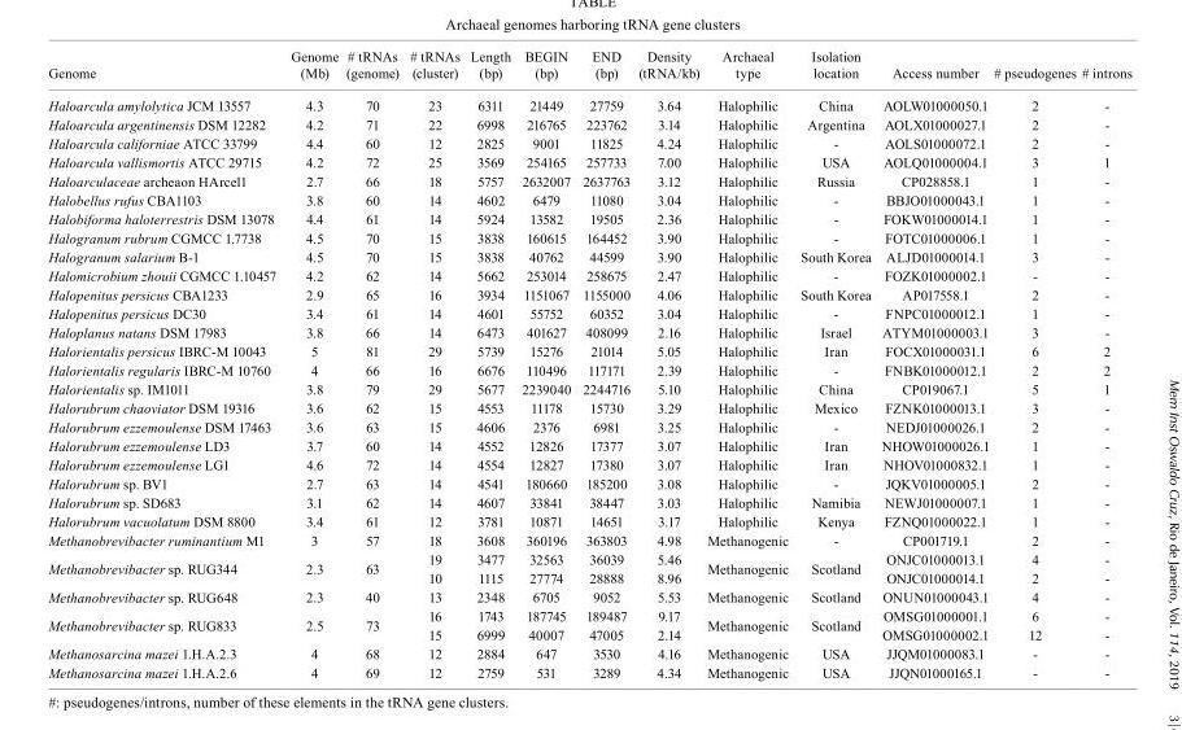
<table><tbody><tr><td>Genome</td><td>Genome (Mb)</td><td># tRNAs (genome)</td><td># tRNAs (cluster)</td><td>Length (bp)</td><td>BEGIN (bp)</td><td>END (bp)</td><td>Density (tRNA/kb)</td><td>Archaeal type</td><td>Isolation location</td><td>Access number</td><td># pseudogenes</td><td># introns</td></tr><tr><td>Haloarcula amylolytica JCM 13557</td><td>4.3</td><td>70</td><td>23</td><td>6311</td><td>21449</td><td>27759</td><td>3.64</td><td>Halophilic</td><td>China</td><td>AOLW01000050.1</td><td>2</td><td>-</td></tr><tr><td>Haloarcula argentinensis DSM 12282</td><td>4.2</td><td>71</td><td>22</td><td>6998</td><td>216765</td><td>223762</td><td>3.14</td><td>Halophilic</td><td>Argentina</td><td>AOLX01000027.1</td><td>2</td><td>-</td></tr><tr><td>Haloarcula californiae ATCC 33799</td><td>4.4</td><td>60</td><td>12</td><td>2825</td><td>9001</td><td>11825</td><td>4.24</td><td>Halophilic</td><td>-</td><td>AOLS01000072.1</td><td>2</td><td>-</td></tr><tr><td>Haloarcula vallismortis ATCC 29715</td><td>4.2</td><td>72</td><td>25</td><td>3569</td><td>254165</td><td>257733</td><td>7.00</td><td>Halophilic</td><td>USA</td><td>AOLQ01000004.1</td><td>3</td><td>1</td></tr><tr><td>Haloarculaceae archeaon HArcel1</td><td>2.7</td><td>66</td><td>18</td><td>5757</td><td>2632007</td><td>2637763</td><td>3.12</td><td>Halophilic</td><td>Russia</td><td>CP028858.1</td><td>1</td><td>-</td></tr><tr><td>Halobellus rufus CBA1103</td><td>3.8</td><td>60</td><td>14</td><td>4602</td><td>6479</td><td>11080</td><td>3.04</td><td>Halophilic</td><td>-</td><td>BBJO01000043.1</td><td>1</td><td>-</td></tr><tr><td>Halobiforma haloterrestris DSM 13078</td><td>4.4</td><td>61</td><td>14</td><td>5924</td><td>13582</td><td>19505</td><td>2.36</td><td>Halophilic</td><td>-</td><td>FOKW01000014.1</td><td>1</td><td>-</td></tr><tr><td>Halogranum rubrum CGMCC 1.7738</td><td>4.5</td><td>70</td><td>15</td><td>3838</td><td>160615</td><td>164452</td><td>3.90</td><td>Halophilic</td><td>-</td><td>FOTC01000006.1</td><td>1</td><td>-</td></tr><tr><td>Halogranum salarium B-1</td><td>4.5</td><td>70</td><td>15</td><td>3838</td><td>40762</td><td>44599</td><td>3.90</td><td>Halophilic</td><td>South Korea</td><td>ALJD01000014.1</td><td>3</td><td>-</td></tr><tr><td>Halomicrobium zhouii CGMCC 1.10457</td><td>4.2</td><td>62</td><td>14</td><td>5662</td><td>253014</td><td>258675</td><td>2.47</td><td>Halophilic</td><td>-</td><td>FOZK01000002.1</td><td>-</td><td>-</td></tr><tr><td>Halopenitus persicus CBA1233</td><td>2.9</td><td>65</td><td>16</td><td>3934</td><td>1151067</td><td>1155000</td><td>4.06</td><td>Halophilic</td><td>South Korea</td><td>AP017558.1</td><td>2</td><td>-</td></tr><tr><td>Halopenitus persicus DC30</td><td>3.4</td><td>61</td><td>14</td><td>4601</td><td>55752</td><td>60352</td><td>3.04</td><td>Halophilic</td><td>-</td><td>FNPC01000012.1</td><td>1</td><td>-</td></tr><tr><td>Haloplanus natans DSM 17983</td><td>3.8</td><td>66</td><td>14</td><td>6473</td><td>401627</td><td>408099</td><td>2.16</td><td>Halophilic</td><td>Israel</td><td>ATYM01000003.1</td><td>3</td><td>-</td></tr><tr><td>Halorientalis persicus IBRC-M 10043</td><td>5</td><td>81</td><td>29</td><td>5739</td><td>15276</td><td>21014</td><td>5.05</td><td>Halophilic</td><td>Iran</td><td>FOCX01000031.1</td><td>6</td><td>2</td></tr><tr><td>Halorientalis regularis IBRC-M 10760</td><td>4</td><td>66</td><td>16</td><td>6676</td><td>110496</td><td>117171</td><td>2.39</td><td>Halophilic</td><td>-</td><td>FNBK01000012.1</td><td>2</td><td>2</td></tr><tr><td>Halorientalis sp. IM1011</td><td>3.8</td><td>79</td><td>29</td><td>5677</td><td>2239040</td><td>2244716</td><td>5.10</td><td>Halophilic</td><td>China</td><td>CP019067.1</td><td>5</td><td>1</td></tr><tr><td>Halorubrum chaoviator DSM 19316</td><td>3.6</td><td>62</td><td>15</td><td>4553</td><td>11178</td><td>15730</td><td>3.29</td><td>Halophilic</td><td>Mexico</td><td>FZNK01000013.1</td><td>3</td><td>-</td></tr><tr><td>Halorubrum ezzemoulense DSM 17463</td><td>3.6</td><td>63</td><td>15</td><td>4606</td><td>2376</td><td>6981</td><td>3.25</td><td>Halophilic</td><td>-</td><td>NEDJ01000026.1</td><td>2</td><td>-</td></tr><tr><td>Halorubrum ezzemoulense LD3</td><td>3.7</td><td>60</td><td>14</td><td>4552</td><td>12826</td><td>17377</td><td>3.07</td><td>Halophilic</td><td>Iran</td><td>NHOW01000026.1</td><td>1</td><td>-</td></tr><tr><td>Halorubrum ezzemoulense LG1</td><td>4.6</td><td>72</td><td>14</td><td>4554</td><td>12827</td><td>17380</td><td>3.07</td><td>Halophilic</td><td>Iran</td><td>NHOV01000832.1</td><td>1</td><td>-</td></tr><tr><td>Halorubrum sp. BV1</td><td>2.7</td><td>63</td><td>14</td><td>4541</td><td>180660</td><td>185200</td><td>3.08</td><td>Halophilic</td><td>-</td><td>JQKV01000005.1</td><td>2</td><td>-</td></tr><tr><td>Halorubrum sp. SD683</td><td>3.1</td><td>62</td><td>14</td><td>4607</td><td>33841</td><td>38447</td><td>3.03</td><td>Halophilic</td><td>Namibia</td><td>NEWJ01000007.1</td><td>1</td><td>-</td></tr><tr><td>Halorubrum vacuolatum DSM 8800</td><td>3.4</td><td>61</td><td>12</td><td>3781</td><td>10871</td><td>14651</td><td>3.17</td><td>Halophilic</td><td>Kenya</td><td>FZNQ01000022.1</td><td>1</td><td>-</td></tr><tr><td>Methanobrevibacter ruminantium M1</td><td>3</td><td>57</td><td>18</td><td>3608</td><td>360196</td><td>363803</td><td>4.98</td><td>Methanogenic</td><td>-</td><td>CP001719.1</td><td>2</td><td>-</td></tr><tr><td rowspan="2">Methanobrevibacter sp. RUG344</td><td rowspan="2">2.3</td><td rowspan="2">63</td><td>19</td><td>3477</td><td>32563</td><td>36039</td><td>5.46</td><td rowspan="2">Methanogenic</td><td rowspan="2">Scotland</td><td>ONJC01000013.1</td><td>4</td><td>-</td></tr><tr><td>10</td><td>1115</td><td>27774</td><td>28888</td><td>8.96</td><td>ONJC01000014.1</td><td>2</td><td>-</td></tr><tr><td>Methanobrevibacter sp. RUG648</td><td>2.3</td><td>40</td><td>13</td><td>2348</td><td>6705</td><td>9052</td><td>5.53</td><td>Methanogenic</td><td>Scotland</td><td>ONUN01000043.1</td><td>4</td><td>-</td></tr><tr><td rowspan="2">Methanobrevibacter sp. RUG833</td><td rowspan="2">2.5</td><td rowspan="2">73</td><td>16</td><td>1743</td><td>187745</td><td>189487</td><td>9.17</td><td rowspan="2">Methanogenic</td><td rowspan="2">Scotland</td><td>OMSG01000001.1</td><td>6</td><td>-</td></tr><tr><td>15</td><td>6999</td><td>40007</td><td>47005</td><td>2.14</td><td>OMSG01000002.1</td><td>12</td><td>-</td></tr><tr><td>Methanosarcina mazei 1.H.A.2.3</td><td>4</td><td>68</td><td>12</td><td>2884</td><td>647</td><td>3530</td><td>4.16</td><td>Methanogenic</td><td>USA</td><td>JJQM01000083.1</td><td>-</td><td>-</td></tr><tr><td>Methanosarcina mazei 1.H.A.2.6</td><td>4</td><td>69</td><td>12</td><td>2759</td><td>531</td><td>3289</td><td>4.34</td><td>Methanogenic</td><td>USA</td><td>JJQN01000165.1</td><td>-</td><td>-</td></tr></tbody></table>